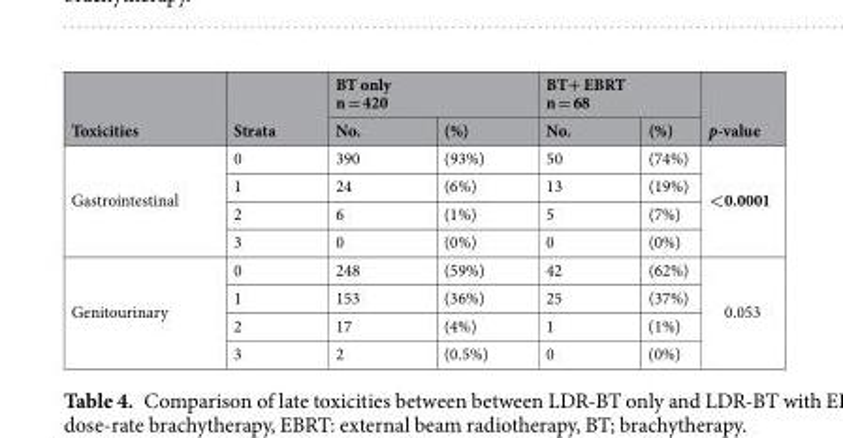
<table><thead><tr><td rowspan="2">Toxicities</td><td rowspan="2">Strata</td><td colspan="2">BT only n = 420</td><td colspan="2">BT+ EBRT n = 68</td><td rowspan="2">p-value</td></tr><tr><td>No.</td><td>(%)</td><td>No.</td><td>(%)</td></tr></thead><tbody><tr><td rowspan="4">Gastrointestinal</td><td>0</td><td>390</td><td>(93%)</td><td>50</td><td>(74%)</td><td rowspan="4">&lt;0.0001</td></tr><tr><td>1</td><td>24</td><td>(6%)</td><td>13</td><td>(19%)</td></tr><tr><td>2</td><td>6</td><td>(1%)</td><td>5</td><td>(7%)</td></tr><tr><td>3</td><td>0</td><td>(0%)</td><td>0</td><td>(0%)</td></tr><tr><td rowspan="4">Genitourinary</td><td>0</td><td>248</td><td>(59%)</td><td>42</td><td>(62%)</td><td rowspan="4">0.053</td></tr><tr><td>1</td><td>153</td><td>(36%)</td><td>25</td><td>(37%)</td></tr><tr><td>2</td><td>17</td><td>(4%)</td><td>1</td><td>(1%)</td></tr><tr><td>3</td><td>2</td><td>(0.5%)</td><td>0</td><td>(0%)</td></tr></tbody></table>